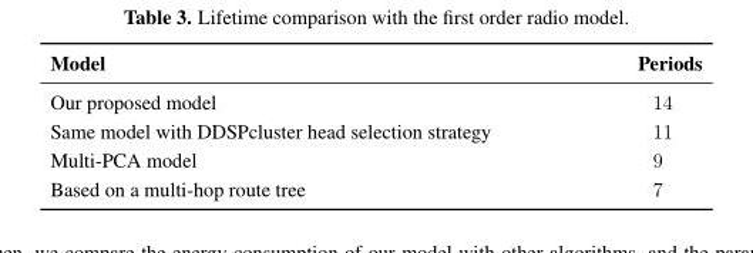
<table><thead><tr><td>Model</td><td>Periods</td></tr></thead><tbody><tr><td>Our proposed model</td><td>14</td></tr><tr><td>Same model with DDSPcluster head selection strategy</td><td>11</td></tr><tr><td>Multi-PCA model</td><td>9</td></tr><tr><td>Based on a multi-hop route tree</td><td>7</td></tr></tbody></table>